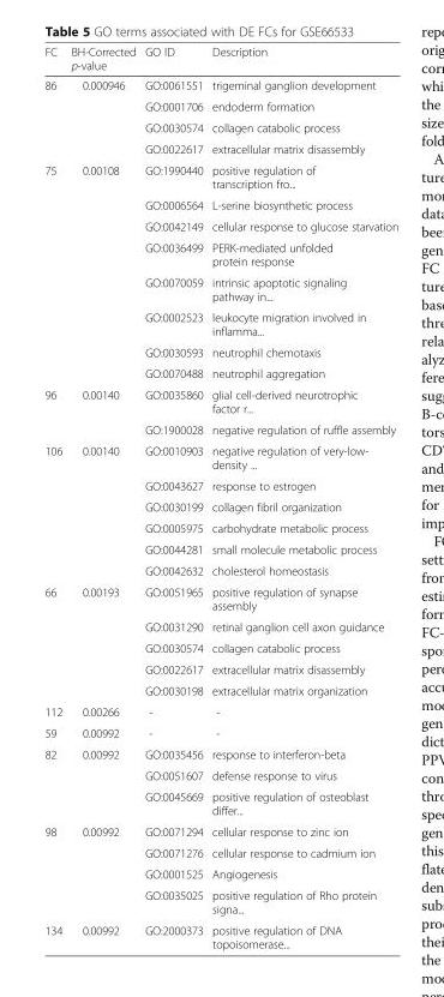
<table><thead><tr><td>FC</td><td>BH-Corrected p-value</td><td>GO ID</td><td>Description</td></tr></thead><tbody><tr><td rowspan="4">86</td><td rowspan="4">0.000946</td><td>GO:0061551</td><td>trigeminal ganglion development</td></tr><tr><td>GO:0001706</td><td>endoderm formation</td></tr><tr><td>GO:0030574</td><td>collagen catabolic process</td></tr><tr><td>GO:0022617</td><td>extracellular matrix disassembly</td></tr><tr><td rowspan="8">75</td><td rowspan="8">0.00108</td><td>GO:1990440</td><td>positive regulation of transcription fro...</td></tr><tr><td>GO:0006564</td><td>L-serine biosynthetic process</td></tr><tr><td>GO:0042149</td><td>cellular response to glucose starvation</td></tr><tr><td>GO:0036499</td><td>PERK-mediated unfolded protein response</td></tr><tr><td>GO:0070059</td><td>intrinsic apoptotic signaling pathway in...</td></tr><tr><td>GO:0002523</td><td>leukocyte migration involved in inflamma...</td></tr><tr><td>GO:0030593</td><td>neutrophil chemotaxis</td></tr><tr><td>GO:0070488</td><td>neutrophil aggregation</td></tr><tr><td rowspan="2">96</td><td rowspan="2">0.00140</td><td>GO:0035860</td><td>glial cell-derived neurotrophic factor r...</td></tr><tr><td>GO:1900028</td><td>negative regulation of ruffle assembly</td></tr><tr><td rowspan="6">106</td><td rowspan="6">0.00140</td><td>GO:0010903</td><td>negative regulation of very-low- density ...</td></tr><tr><td>GO:0043627</td><td>response to estrogen</td></tr><tr><td>GO:0030199</td><td>collagen fibril organization</td></tr><tr><td>GO:0005975</td><td>carbohydrate metabolic process</td></tr><tr><td>GO:0044281</td><td>small molecule metabolic process</td></tr><tr><td>GO:0042632</td><td>cholesterol homeostasis</td></tr><tr><td rowspan="5">66</td><td rowspan="5">0.00193</td><td>GO:0051965</td><td>positive regulation of synapse assembly</td></tr><tr><td>GO:0031290</td><td>retinal ganglion cell axon guidance</td></tr><tr><td>GO:0030574</td><td>collagen catabolic process</td></tr><tr><td>GO:0022617</td><td>extracellular matrix disassembly</td></tr><tr><td>GO:0030198</td><td>extracellular matrix organization</td></tr><tr><td>112</td><td>0.00266</td><td>-</td><td>-</td></tr><tr><td>59</td><td>0.00992</td><td>-</td><td>-</td></tr><tr><td rowspan="3">82</td><td rowspan="3">0.00992</td><td>GO:0035456</td><td>response to interferon-beta</td></tr><tr><td>GO:0051607</td><td>defense response to virus</td></tr><tr><td>GO:0045669</td><td>positive regulation of osteoblast differ...</td></tr><tr><td rowspan="4">98</td><td rowspan="4">0.00992</td><td>GO:0071294</td><td>cellular response to zinc ion</td></tr><tr><td>GO:0071276</td><td>cellular response to cadmium ion</td></tr><tr><td>GO:0001525</td><td>Angiogenesis</td></tr><tr><td>GO:0035025</td><td>positive regulation of Rho protein signa...</td></tr><tr><td>134</td><td>0.00992</td><td>GO:2000373</td><td>positive regulation of DNA topoisomerase...</td></tr></tbody></table>